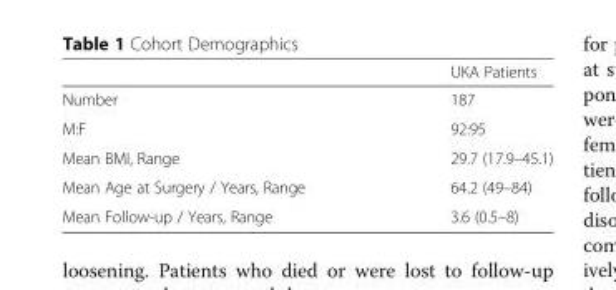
<table><thead><tr><td></td><td>UKA Patients</td></tr></thead><tbody><tr><td>Number</td><td>187</td></tr><tr><td>M:F</td><td>92:95</td></tr><tr><td>Mean BMI, Range</td><td>29.7 (17.9–45.1)</td></tr><tr><td>Mean Age at Surgery / Years, Range</td><td>64.2 (49–84)</td></tr><tr><td>Mean Follow-up / Years, Range</td><td>3.6 (0.5–8)</td></tr></tbody></table>